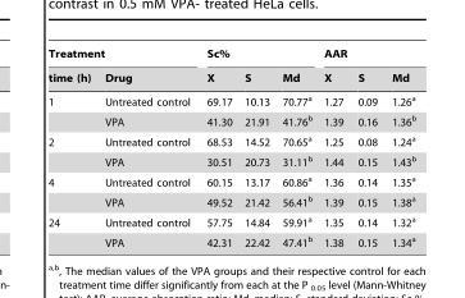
<table><thead><tr><td colspan="2">Treatment</td><td colspan="3">Sc%</td><td colspan="3">AAR</td></tr><tr><td>time (h)</td><td>Drug</td><td>X</td><td>S</td><td>Md</td><td>X</td><td>S</td><td>Md</td></tr></thead><tbody><tr><td rowspan="2">1</td><td>Untreated control</td><td>69.17</td><td>10.13</td><td>70.77<sup>a</sup></td><td>1.27</td><td>0.09</td><td>1.26<sup>a</sup></td></tr><tr><td>VPA</td><td>41.30</td><td>21.91</td><td>41.76<sup>b</sup></td><td>1.39</td><td>0.16</td><td>1.36<sup>b</sup></td></tr><tr><td rowspan="2">2</td><td>Untreated control</td><td>68.53</td><td>14.52</td><td>70.65<sup>a</sup></td><td>1.25</td><td>0.08</td><td>1.24<sup>a</sup></td></tr><tr><td>VPA</td><td>30.51</td><td>20.73</td><td>31.11<sup>b</sup></td><td>1.44</td><td>0.15</td><td>1.43<sup>b</sup></td></tr><tr><td rowspan="2">4</td><td>Untreated control</td><td>60.15</td><td>13.17</td><td>60.86<sup>a</sup></td><td>1.36</td><td>0.14</td><td>1.35<sup>a</sup></td></tr><tr><td>VPA</td><td>49.52</td><td>21.42</td><td>56.41<sup>b</sup></td><td>1.39</td><td>0.15</td><td>1.38<sup>a</sup></td></tr><tr><td rowspan="2">24</td><td>Untreated control</td><td>57.75</td><td>14.84</td><td>59.91<sup>a</sup></td><td>1.35</td><td>0.14</td><td>1.32<sup>a</sup></td></tr><tr><td>VPA</td><td>42.31</td><td>22.42</td><td>47.41<sup>b</sup></td><td>1.38</td><td>0.15</td><td>1.34<sup>a</sup></td></tr></tbody></table>